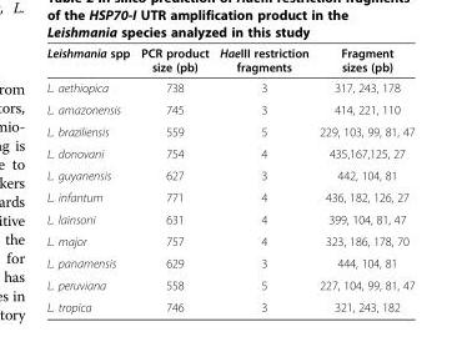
<table><thead><tr><td>Leishmania spp</td><td>PCR product size (pb)</td><td>HaeIII restriction fragments</td><td>Fragment sizes (pb)</td></tr></thead><tbody><tr><td>L. aethiopica</td><td>738</td><td>3</td><td>317, 243, 178</td></tr><tr><td>L. amazonensis</td><td>745</td><td>3</td><td>414, 221, 110</td></tr><tr><td>L. braziliensis</td><td>559</td><td>5</td><td>229, 103, 99, 81, 47</td></tr><tr><td>L. donovani</td><td>754</td><td>4</td><td>435,167,125, 27</td></tr><tr><td>L. guyanensis</td><td>627</td><td>3</td><td>442, 104, 81</td></tr><tr><td>L. infantum</td><td>771</td><td>4</td><td>436, 182, 126, 27</td></tr><tr><td>L. lainsoni</td><td>631</td><td>4</td><td>399, 104, 81, 47</td></tr><tr><td>L. major</td><td>757</td><td>4</td><td>323, 186, 178, 70</td></tr><tr><td>L. panamensis</td><td>629</td><td>3</td><td>444, 104, 81</td></tr><tr><td>L. peruviana</td><td>558</td><td>5</td><td>227, 104, 99, 81, 47</td></tr><tr><td>L. tropica</td><td>746</td><td>3</td><td>321, 243, 182</td></tr></tbody></table>